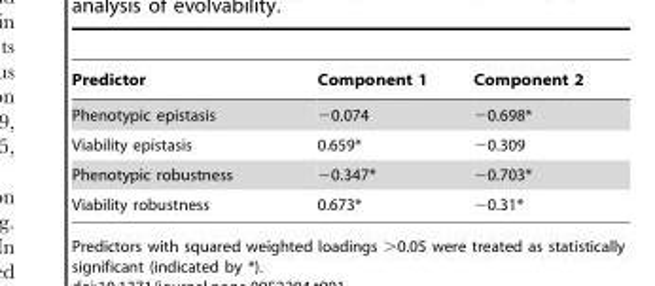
<table><thead><tr><td>Predictor</td><td>Component 1</td><td>Component 2</td></tr></thead><tbody><tr><td>Phenotypic epistasis</td><td>−0.074</td><td>−0.698*</td></tr><tr><td>Viability epistasis</td><td>0.659*</td><td>−0.309</td></tr><tr><td>Phenotypic robustness</td><td>−0.347*</td><td>−0.703*</td></tr><tr><td>Viability robustness</td><td>0.673*</td><td>−0.31*</td></tr></tbody></table>